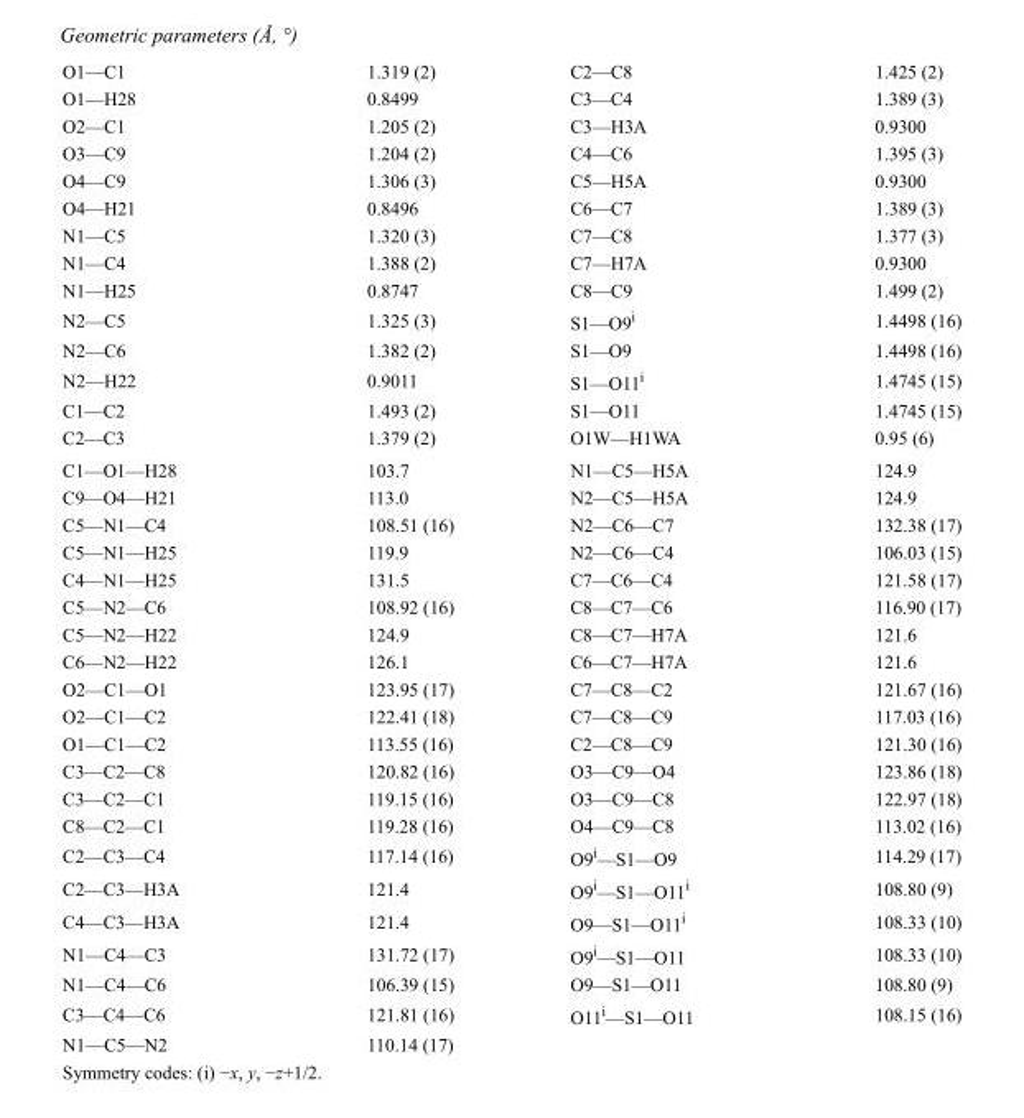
<table><tbody><tr><td>O1—C1</td><td>1.319 (2)</td><td>C2—C8</td><td>1.425 (2)</td></tr><tr><td>O1—H28</td><td>0.8499</td><td>C3—C4</td><td>1.389 (3)</td></tr><tr><td>O2—C1</td><td>1.205 (2)</td><td>C3—H3A</td><td>0.9300</td></tr><tr><td>O3—C9</td><td>1.204 (2)</td><td>C4—C6</td><td>1.395 (3)</td></tr><tr><td>O4—C9</td><td>1.306 (3)</td><td>C5—H5A</td><td>0.9300</td></tr><tr><td>O4—H21</td><td>0.8496</td><td>C6—C7</td><td>1.389 (3)</td></tr><tr><td>N1—C5</td><td>1.320 (3)</td><td>C7—C8</td><td>1.377 (3)</td></tr><tr><td>N1—C4</td><td>1.388 (2)</td><td>C7—H7A</td><td>0.9300</td></tr><tr><td>N1—H25</td><td>0.8747</td><td>C8—C9</td><td>1.499 (2)</td></tr><tr><td>N2—C5</td><td>1.325 (3)</td><td>S1—O9<sup>i</sup></td><td>1.4498 (16)</td></tr><tr><td>N2—C6</td><td>1.382 (2)</td><td>S1—O9</td><td>1.4498 (16)</td></tr><tr><td>N2—H22</td><td>0.9011</td><td>S1—O11<sup>i</sup></td><td>1.4745 (15)</td></tr><tr><td>C1—C2</td><td>1.493 (2)</td><td>S1—O11</td><td>1.4745 (15)</td></tr><tr><td>C2—C3</td><td>1.379 (2)</td><td>O1W—H1WA</td><td>0.95 (6)</td></tr><tr><td>C1—O1—H28</td><td>103.7</td><td>N1—C5—H5A</td><td>124.9</td></tr><tr><td>C9—O4—H21</td><td>113.0</td><td>N2—C5—H5A</td><td>124.9</td></tr><tr><td>C5—N1—C4</td><td>108.51 (16)</td><td>N2—C6—C7</td><td>132.38 (17)</td></tr><tr><td>C5—N1—H25</td><td>119.9</td><td>N2—C6—C4</td><td>106.03 (15)</td></tr><tr><td>C4—N1—H25</td><td>131.5</td><td>C7—C6—C4</td><td>121.58 (17)</td></tr><tr><td>C5—N2—C6</td><td>108.92 (16)</td><td>C8—C7—C6</td><td>116.90 (17)</td></tr><tr><td>C5—N2—H22</td><td>124.9</td><td>C8—C7—H7A</td><td>121.6</td></tr><tr><td>C6—N2—H22</td><td>126.1</td><td>C6—C7—H7A</td><td>121.6</td></tr><tr><td>O2—C1—O1</td><td>123.95 (17)</td><td>C7—C8—C2</td><td>121.67 (16)</td></tr><tr><td>O2—C1—C2</td><td>122.41 (18)</td><td>C7—C8—C9</td><td>117.03 (16)</td></tr><tr><td>O1—C1—C2</td><td>113.55 (16)</td><td>C2—C8—C9</td><td>121.30 (16)</td></tr><tr><td>C3—C2—C8</td><td>120.82 (16)</td><td>O3—C9—O4</td><td>123.86 (18)</td></tr><tr><td>C3—C2—C1</td><td>119.15 (16)</td><td>O3—C9—C8</td><td>122.97 (18)</td></tr><tr><td>C8—C2—C1</td><td>119.28 (16)</td><td>O4—C9—C8</td><td>113.02 (16)</td></tr><tr><td>C2—C3—C4</td><td>117.14 (16)</td><td>O9<sup>i</sup>—S1—O9</td><td>114.29 (17)</td></tr><tr><td>C2—C3—H3A</td><td>121.4</td><td>O9<sup>i</sup>—S1—O11<sup>i</sup></td><td>108.80 (9)</td></tr><tr><td>C4—C3—H3A</td><td>121.4</td><td>O9—S1—O11<sup>i</sup></td><td>108.33 (10)</td></tr><tr><td>N1—C4—C3</td><td>131.72 (17)</td><td>O9<sup>i</sup>—S1—O11</td><td>108.33 (10)</td></tr><tr><td>N1—C4—C6</td><td>106.39 (15)</td><td>O9—S1—O11</td><td>108.80 (9)</td></tr><tr><td>C3—C4—C6</td><td>121.81 (16)</td><td>O11<sup>i</sup>—S1—O11</td><td>108.15 (16)</td></tr><tr><td>N1—C5—N2</td><td>110.14 (17)</td><td></td><td></td></tr></tbody></table>